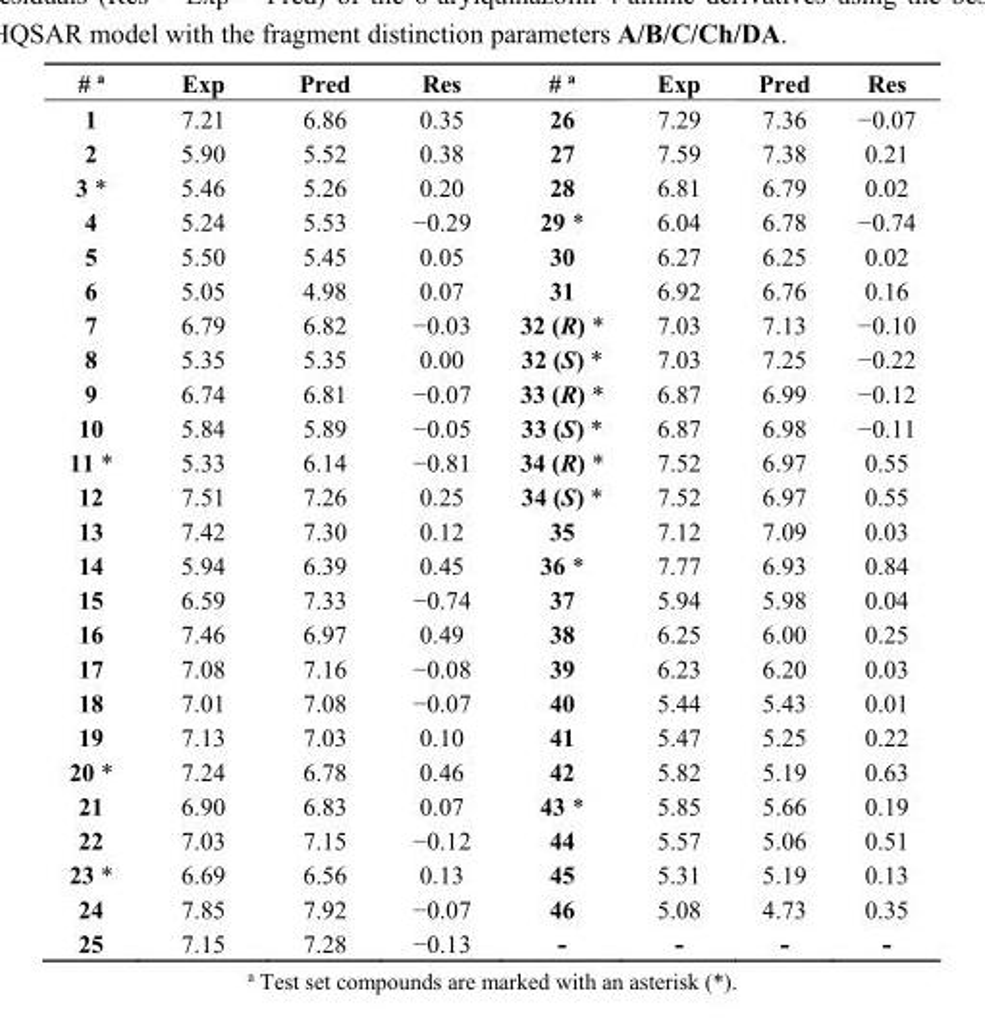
<table><thead><tr><td># <sup>a</sup></td><td>Exp</td><td>Pred</td><td>Res</td><td># <sup>a</sup></td><td>Exp</td><td>Pred</td><td>Res</td></tr></thead><tbody><tr><td>1</td><td>7.21</td><td>6.86</td><td>0.35</td><td>26</td><td>7.29</td><td>7.36</td><td>−0.07</td></tr><tr><td>2</td><td>5.90</td><td>5.52</td><td>0.38</td><td>27</td><td>7.59</td><td>7.38</td><td>0.21</td></tr><tr><td>3 *</td><td>5.46</td><td>5.26</td><td>0.20</td><td>28</td><td>6.81</td><td>6.79</td><td>0.02</td></tr><tr><td>4</td><td>5.24</td><td>5.53</td><td>−0.29</td><td>29 *</td><td>6.04</td><td>6.78</td><td>−0.74</td></tr><tr><td>5</td><td>5.50</td><td>5.45</td><td>0.05</td><td>30</td><td>6.27</td><td>6.25</td><td>0.02</td></tr><tr><td>6</td><td>5.05</td><td>4.98</td><td>0.07</td><td>31</td><td>6.92</td><td>6.76</td><td>0.16</td></tr><tr><td>7</td><td>6.79</td><td>6.82</td><td>−0.03</td><td>32 (R) *</td><td>7.03</td><td>7.13</td><td>−0.10</td></tr><tr><td>8</td><td>5.35</td><td>5.35</td><td>0.00</td><td>32 (S) *</td><td>7.03</td><td>7.25</td><td>−0.22</td></tr><tr><td>9</td><td>6.74</td><td>6.81</td><td>−0.07</td><td>33 (R) *</td><td>6.87</td><td>6.99</td><td>−0.12</td></tr><tr><td>10</td><td>5.84</td><td>5.89</td><td>−0.05</td><td>33 (S) *</td><td>6.87</td><td>6.98</td><td>−0.11</td></tr><tr><td>11 *</td><td>5.33</td><td>6.14</td><td>−0.81</td><td>34 (R) *</td><td>7.52</td><td>6.97</td><td>0.55</td></tr><tr><td>12</td><td>7.51</td><td>7.26</td><td>0.25</td><td>34 (S) *</td><td>7.52</td><td>6.97</td><td>0.55</td></tr><tr><td>13</td><td>7.42</td><td>7.30</td><td>0.12</td><td>35</td><td>7.12</td><td>7.09</td><td>0.03</td></tr><tr><td>14</td><td>5.94</td><td>6.39</td><td>0.45</td><td>36 *</td><td>7.77</td><td>6.93</td><td>0.84</td></tr><tr><td>15</td><td>6.59</td><td>7.33</td><td>−0.74</td><td>37</td><td>5.94</td><td>5.98</td><td>0.04</td></tr><tr><td>16</td><td>7.46</td><td>6.97</td><td>0.49</td><td>38</td><td>6.25</td><td>6.00</td><td>0.25</td></tr><tr><td>17</td><td>7.08</td><td>7.16</td><td>−0.08</td><td>39</td><td>6.23</td><td>6.20</td><td>0.03</td></tr><tr><td>18</td><td>7.01</td><td>7.08</td><td>−0.07</td><td>40</td><td>5.44</td><td>5.43</td><td>0.01</td></tr><tr><td>19</td><td>7.13</td><td>7.03</td><td>0.10</td><td>41</td><td>5.47</td><td>5.25</td><td>0.22</td></tr><tr><td>20 *</td><td>7.24</td><td>6.78</td><td>0.46</td><td>42</td><td>5.82</td><td>5.19</td><td>0.63</td></tr><tr><td>21</td><td>6.90</td><td>6.83</td><td>0.07</td><td>43 *</td><td>5.85</td><td>5.66</td><td>0.19</td></tr><tr><td>22</td><td>7.03</td><td>7.15</td><td>−0.12</td><td>44</td><td>5.57</td><td>5.06</td><td>0.51</td></tr><tr><td>23 *</td><td>6.69</td><td>6.56</td><td>0.13</td><td>45</td><td>5.31</td><td>5.19</td><td>0.13</td></tr><tr><td>24</td><td>7.85</td><td>7.92</td><td>−0.07</td><td>46</td><td>5.08</td><td>4.73</td><td>0.35</td></tr><tr><td>25</td><td>7.15</td><td>7.28</td><td>−0.13</td><td>-</td><td>-</td><td>-</td><td>-</td></tr></tbody></table>